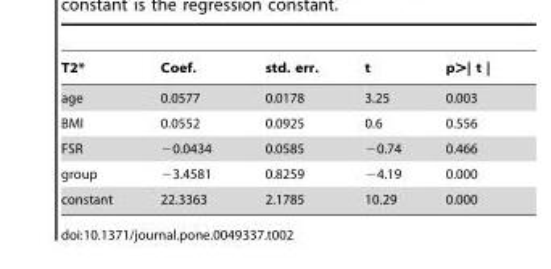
<table><thead><tr><td>T2*</td><td>Coef.</td><td>std. err.</td><td>t</td><td>p&gt;| t |</td></tr></thead><tbody><tr><td>age</td><td>0.0577</td><td>0.0178</td><td>3.25</td><td>0.003</td></tr><tr><td>BMI</td><td>0.0552</td><td>0.0925</td><td>0.6</td><td>0.556</td></tr><tr><td>FSR</td><td>−0.0434</td><td>0.0585</td><td>−0.74</td><td>0.466</td></tr><tr><td>group</td><td>−3.4581</td><td>0.8259</td><td>−4.19</td><td>0.000</td></tr><tr><td>constant</td><td>22.3363</td><td>2.1785</td><td>10.29</td><td>0.000</td></tr></tbody></table>